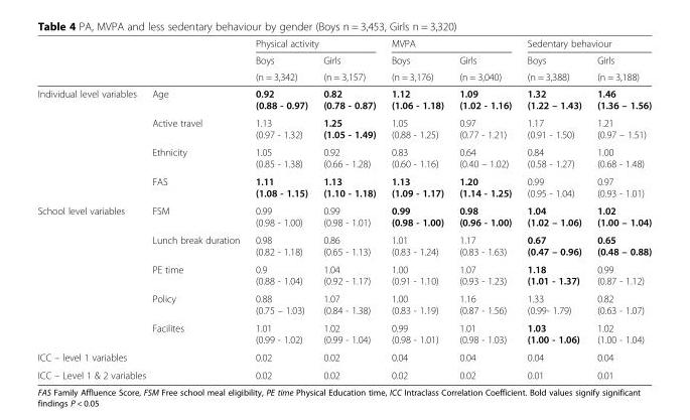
<table><thead><tr><td rowspan="3"></td><td rowspan="3"></td><td colspan="2">Physical activity</td><td colspan="2">MVPA</td><td colspan="2">Sedentary behaviour</td></tr><tr><td rowspan="2">Boys (n = 3,342)</td><td rowspan="2">Girls (n = 3,157)</td><td rowspan="2">Boys (n = 3,176)</td><td rowspan="2">Girls (n = 3,040)</td><td rowspan="2">Boys (n = 3,388)</td><td rowspan="2">Girls (n = 3,188)</td></tr><tr></tr></thead><tbody><tr><td rowspan="4">Individual level variables</td><td>Age</td><td>0.92 (0.88 - 0.97)</td><td>0.82 (0.78 - 0.87)</td><td>1.12 (1.06 - 1.18)</td><td>1.09 (1.02 - 1.16)</td><td>1.32 (1.22 – 1.43)</td><td>1.46 (1.36 – 1.56)</td></tr><tr><td>Active travel</td><td>1.13 (0.97 - 1.32)</td><td>1.25 (1.05 - 1.49)</td><td>1.05 (0.88 - 1.25)</td><td>0.97 (0.77 - 1.21)</td><td>1.17 (0.91 - 1.50)</td><td>1.21 (0.97 – 1.51)</td></tr><tr><td>Ethnicity</td><td>1.05 (0.85 - 1.38)</td><td>0.92 (0.66 - 1.28)</td><td>0.83 (0.60 - 1.16)</td><td>0.64 (0.40 – 1.02)</td><td>0.84 (0.58 - 1.27)</td><td>1.00 (0.68 - 1.48)</td></tr><tr><td>FAS</td><td>1.11 (1.08 - 1.15)</td><td>1.13 (1.10 - 1.18)</td><td>1.13 (1.09 - 1.17)</td><td>1.20 (1.14 - 1.25)</td><td>0.99 (0.95 - 1.04)</td><td>0.97 (0.93 - 1.01)</td></tr><tr><td rowspan="5">School level variables</td><td>FSM</td><td>0.99 (0.98 - 1.00)</td><td>0.99 (0.98 - 1.01)</td><td>0.99 (0.98 - 1.00)</td><td>0.98 (0.96 - 1.00)</td><td>1.04 (1.02 – 1.06)</td><td>1.02 (1.00 – 1.04)</td></tr><tr><td>Lunch break duration</td><td>0.98 (0.82 - 1.18)</td><td>0.86 (0.65 - 1.13)</td><td>1.01 (0.83 - 1.24)</td><td>1.17 (0.83 - 1.63)</td><td>0.67 (0.47 – 0.96)</td><td>0.65 (0.48 – 0.88)</td></tr><tr><td>PE time</td><td>0.9 (0.88 - 1.04)</td><td>1.04 (0.92 - 1.17)</td><td>1.00 (0.91 - 1.10)</td><td>1.07 (0.93 - 1.23)</td><td>1.18 (1.01 - 1.37)</td><td>0.99 (0.87 - 1.12)</td></tr><tr><td>Policy</td><td>0.88 (0.75 – 1.03)</td><td>1.07 (0.84 - 1.38)</td><td>1.00 (0.83 - 1.19)</td><td>1.16 (0.87 - 1.56)</td><td>1.33 (0.99- 1.79)</td><td>0.82 (0.63 - 1.07)</td></tr><tr><td>Facilites</td><td>1.01 (0.99 - 1.02)</td><td>1.02 (0.99 - 1.04)</td><td>0.99 (0.98 - 1.01)</td><td>1.01 (0.98 - 1.03)</td><td>1.03 (1.00 - 1.06)</td><td>1.02 (1.00 - 1.04)</td></tr><tr><td colspan="2">ICC – level 1 variables</td><td>0.02</td><td>0.02</td><td>0.04</td><td>0.04</td><td>0.04</td><td>0.04</td></tr><tr><td colspan="2">ICC – Level 1 &amp; 2 variables</td><td>0.02</td><td>0.02</td><td>0.02</td><td>0.02</td><td>0.01</td><td>0.01</td></tr></tbody></table>